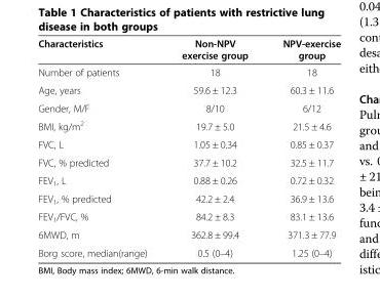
<table><thead><tr><td>Characteristics</td><td>Non-NPV exercise group</td><td>NPV-exercise group</td></tr></thead><tbody><tr><td>Number of patients</td><td>18</td><td>18</td></tr><tr><td>Age, years</td><td>59.6 ± 12.3</td><td>60.3 ± 11.6</td></tr><tr><td>Gender, M/F</td><td>8/10</td><td>6/12</td></tr><tr><td>BMI, kg/m<sup>2</sup></td><td>19.7 ± 5.0</td><td>21.5 ± 4.6</td></tr><tr><td>FVC, L</td><td>1.05 ± 0.34</td><td>0.85 ± 0.37</td></tr><tr><td>FVC, % predicted</td><td>37.7 ± 10.2</td><td>32.5 ± 11.7</td></tr><tr><td>FEV<sub>1</sub>, L</td><td>0.88 ± 0.26</td><td>0.72 ± 0.32</td></tr><tr><td>FEV<sub>1</sub>, % predicted</td><td>42.2 ± 2.4</td><td>36.9 ± 13.6</td></tr><tr><td>FEV<sub>1</sub>/FVC, %</td><td>84.2 ± 8.3</td><td>83.1 ± 13.6</td></tr><tr><td>6MWD, m</td><td>362.8 ± 99.4</td><td>371.3 ± 77.9</td></tr><tr><td>Borg score, median(range)</td><td>0.5 (0–4)</td><td>1.25 (0–4)</td></tr></tbody></table>